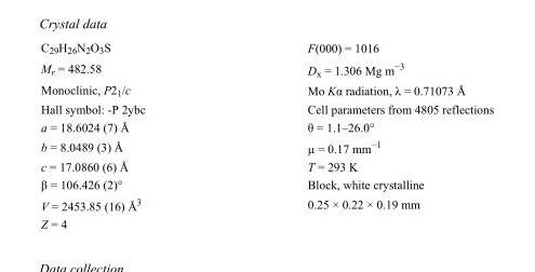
<table><tbody><tr><td>C<sub>29</sub>H<sub>26</sub>N<sub>2</sub>O<sub>3</sub>S</td><td>F(000) = 1016</td></tr><tr><td>M<sub>r</sub> = 482.58</td><td>D<sub>x</sub> = 1.306 Mg m<sup>−3</sup></td></tr><tr><td>Monoclinic, P2<sub>1</sub>/c</td><td>Mo Kα radiation, λ = 0.71073 Å</td></tr><tr><td>Hall symbol: -P 2ybc</td><td>Cell parameters from 4805 reflections</td></tr><tr><td>a = 18.6024 (7) Å</td><td>θ = 1.1–26.0°</td></tr><tr><td>b = 8.0489 (3) Å</td><td>µ = 0.17 mm<sup>−1</sup></td></tr><tr><td>c = 17.0860 (6) Å</td><td>T = 293 K</td></tr><tr><td>β = 106.426 (2)°</td><td>Block, white crystalline</td></tr><tr><td>V = 2453.85 (16) Å<sup>3</sup></td><td>0.25 × 0.22 × 0.19 mm</td></tr><tr><td>Z = 4</td><td></td></tr></tbody></table>